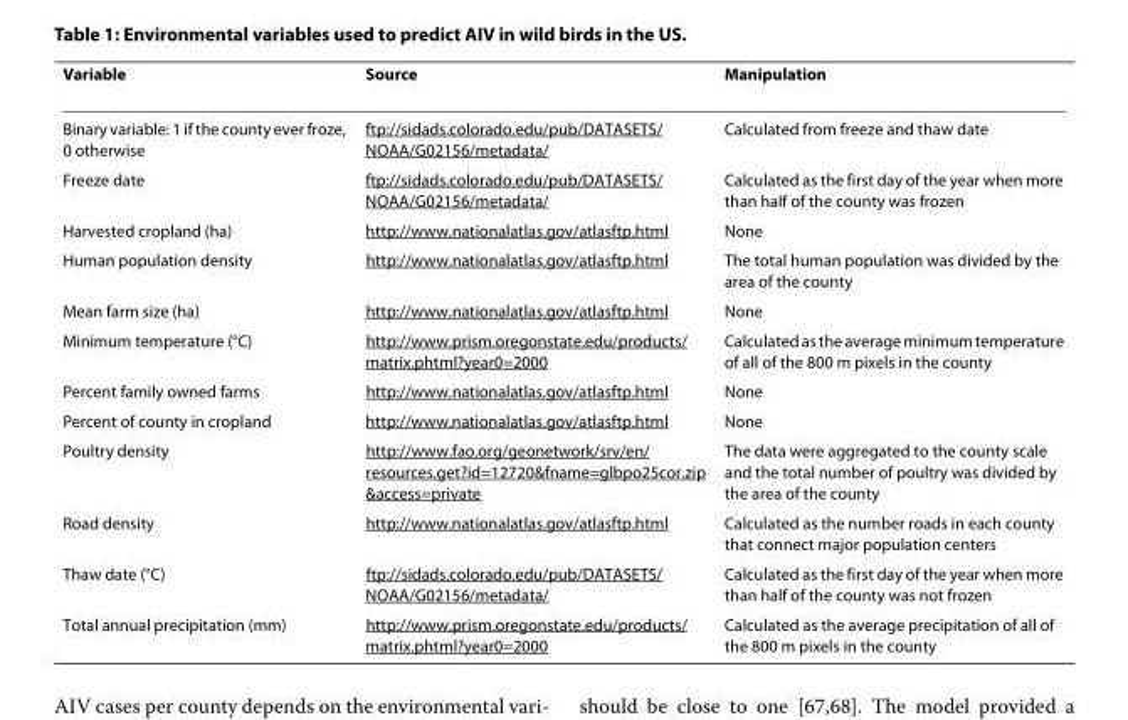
<table><thead><tr><td>Variable</td><td>Source</td><td>Manipulation</td></tr></thead><tbody><tr><td>Binary variable: 1 if the county ever froze, 0 otherwise</td><td>ftp://sidads.colorado.edu/pub/DATASETS/ NOAA/G02156/metadata/</td><td>Calculated from freeze and thaw date</td></tr><tr><td>Freeze date</td><td>ftp://sidads.colorado.edu/pub/DATASETS/ NOAA/G02156/metadata/</td><td>Calculated as the first day of the year when more than half of the county was frozen</td></tr><tr><td>Harvested cropland (ha)</td><td>http://www.nationalatlas.gov/atlasftp.html</td><td>None</td></tr><tr><td>Human population density</td><td>http://www.nationalatlas.gov/atlasftp.html</td><td>The total human population was divided by the area of the county</td></tr><tr><td>Mean farm size (ha)</td><td>http://www.nationalatlas.gov/atlasftp.html</td><td>None</td></tr><tr><td>Minimum temperature (°C)</td><td>http://www.prism.oregonstate.edu/products/ matrix.phtml?year0=2000</td><td>Calculated as the average minimum temperature of all of the 800 m pixels in the county</td></tr><tr><td>Percent family owned farms</td><td>http://www.nationalatlas.gov/atlasftp.html</td><td>None</td></tr><tr><td>Percent of county in cropland</td><td>http://www.nationalatlas.gov/atlasftp.html</td><td>None</td></tr><tr><td>Poultry density</td><td>http://www.fao.org/geonetwork/srv/en/ resources.get?id=12720&amp;fname=glbpo25cor.zip &amp;access=private</td><td>The data were aggregated to the county scale and the total number of poultry was divided by the area of the county</td></tr><tr><td>Road density</td><td>http://www.nationalatlas.gov/atlasftp.html</td><td>Calculated as the number roads in each county that connect major population centers</td></tr><tr><td>Thaw date (°C)</td><td>ftp://sidads.colorado.edu/pub/DATASETS/ NOAA/G02156/metadata/</td><td>Calculated as the first day of the year when more than half of the county was not frozen</td></tr><tr><td>Total annual precipitation (mm)</td><td>http://www.prism.oregonstate.edu/products/ matrix.phtml?year0=2000</td><td>Calculated as the average precipitation of all of the 800 m pixels in the county</td></tr></tbody></table>